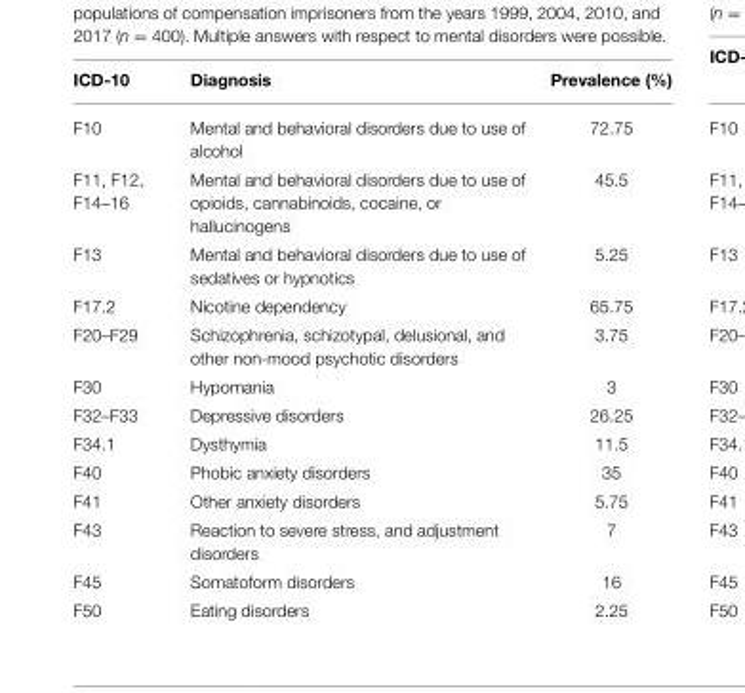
<table><thead><tr><td>ICD-10</td><td>Diagnosis</td><td>Prevalence (%)</td></tr></thead><tbody><tr><td>F10</td><td>Mental and behavioral disorders due to use of alcohol</td><td>72.75</td></tr><tr><td>F11, F12, F14–16</td><td>Mental and behavioral disorders due to use of opioids, cannabinoids, cocaine, or hallucinogens</td><td>45.5</td></tr><tr><td>F13</td><td>Mental and behavioral disorders due to use of sedatives or hypnotics</td><td>5.25</td></tr><tr><td>F17.2</td><td>Nicotine dependency</td><td>65.75</td></tr><tr><td>F20–F29</td><td>Schizophrenia, schizotypal, delusional, and other non-mood psychotic disorders</td><td>3.75</td></tr><tr><td>F30</td><td>Hypomania</td><td>3</td></tr><tr><td>F32–F33</td><td>Depressive disorders</td><td>26.25</td></tr><tr><td>F34.1</td><td>Dysthymia</td><td>11.5</td></tr><tr><td>F40</td><td>Phobic anxiety disorders</td><td>35</td></tr><tr><td>F41</td><td>Other anxiety disorders</td><td>5.75</td></tr><tr><td>F43</td><td>Reaction to severe stress, and adjustment disorders</td><td>7</td></tr><tr><td>F45</td><td>Somatoform disorders</td><td>16</td></tr><tr><td>F50</td><td>Eating disorders</td><td>2.25</td></tr></tbody></table>